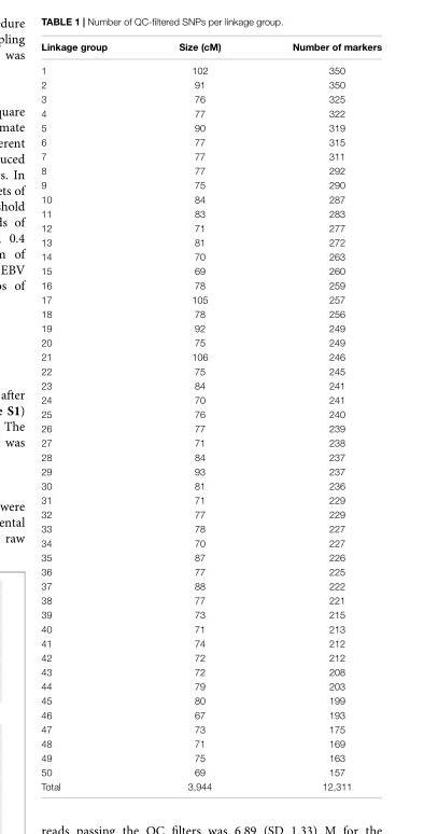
<table><thead><tr><td>Linkage group</td><td>Size (cM)</td><td>Number of markers</td></tr></thead><tbody><tr><td>1</td><td>102</td><td>350</td></tr><tr><td>2</td><td>91</td><td>350</td></tr><tr><td>3</td><td>76</td><td>325</td></tr><tr><td>4</td><td>77</td><td>322</td></tr><tr><td>5</td><td>90</td><td>319</td></tr><tr><td>6</td><td>77</td><td>315</td></tr><tr><td>7</td><td>77</td><td>311</td></tr><tr><td>8</td><td>77</td><td>292</td></tr><tr><td>9</td><td>75</td><td>290</td></tr><tr><td>10</td><td>84</td><td>287</td></tr><tr><td>11</td><td>83</td><td>283</td></tr><tr><td>12</td><td>71</td><td>277</td></tr><tr><td>13</td><td>81</td><td>272</td></tr><tr><td>14</td><td>70</td><td>263</td></tr><tr><td>15</td><td>69</td><td>260</td></tr><tr><td>16</td><td>78</td><td>259</td></tr><tr><td>17</td><td>105</td><td>257</td></tr><tr><td>18</td><td>78</td><td>256</td></tr><tr><td>19</td><td>92</td><td>249</td></tr><tr><td>20</td><td>75</td><td>249</td></tr><tr><td>21</td><td>106</td><td>246</td></tr><tr><td>22</td><td>75</td><td>245</td></tr><tr><td>23</td><td>84</td><td>241</td></tr><tr><td>24</td><td>70</td><td>241</td></tr><tr><td>25</td><td>76</td><td>240</td></tr><tr><td>26</td><td>77</td><td>239</td></tr><tr><td>27</td><td>71</td><td>238</td></tr><tr><td>28</td><td>84</td><td>237</td></tr><tr><td>29</td><td>93</td><td>237</td></tr><tr><td>30</td><td>81</td><td>236</td></tr><tr><td>31</td><td>71</td><td>229</td></tr><tr><td>32</td><td>77</td><td>229</td></tr><tr><td>33</td><td>78</td><td>227</td></tr><tr><td>34</td><td>70</td><td>227</td></tr><tr><td>35</td><td>87</td><td>226</td></tr><tr><td>36</td><td>77</td><td>225</td></tr><tr><td>37</td><td>88</td><td>222</td></tr><tr><td>38</td><td>77</td><td>221</td></tr><tr><td>39</td><td>73</td><td>215</td></tr><tr><td>40</td><td>71</td><td>213</td></tr><tr><td>41</td><td>74</td><td>212</td></tr><tr><td>42</td><td>72</td><td>212</td></tr><tr><td>43</td><td>72</td><td>208</td></tr><tr><td>44</td><td>79</td><td>203</td></tr><tr><td>45</td><td>80</td><td>199</td></tr><tr><td>46</td><td>67</td><td>193</td></tr><tr><td>47</td><td>73</td><td>175</td></tr><tr><td>48</td><td>71</td><td>169</td></tr><tr><td>49</td><td>75</td><td>163</td></tr><tr><td>50</td><td>69</td><td>157</td></tr><tr><td>Total</td><td>3,944</td><td>12,311</td></tr></tbody></table>